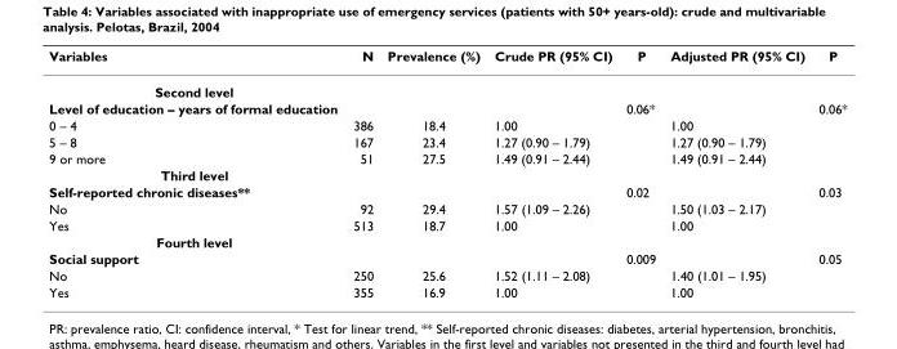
<table><thead><tr><td>Variables</td><td>N</td><td>Prevalence (%)</td><td>Crude PR (95% CI)</td><td>P</td><td>Adjusted PR (95% CI)</td><td>P</td></tr></thead><tbody><tr><td colspan="7">Second level</td></tr><tr><td>Level of education – years of formal education</td><td></td><td></td><td></td><td>0.06*</td><td></td><td>0.06*</td></tr><tr><td>0 – 4</td><td>386</td><td>18.4</td><td>1.00</td><td></td><td>1.00</td><td></td></tr><tr><td>5 – 8</td><td>167</td><td>23.4</td><td>1.27 (0.90 – 1.79)</td><td></td><td>1.27 (0.90 – 1.79)</td><td></td></tr><tr><td>9 or more</td><td>51</td><td>27.5</td><td>1.49 (0.91 – 2.44)</td><td></td><td>1.49 (0.91 – 2.44)</td><td></td></tr><tr><td colspan="7">Third level</td></tr><tr><td>Self-reported chronic diseases**</td><td></td><td></td><td></td><td>0.02</td><td></td><td>0.03</td></tr><tr><td>No</td><td>92</td><td>29.4</td><td>1.57 (1.09 – 2.26)</td><td></td><td>1.50 (1.03 – 2.17)</td><td></td></tr><tr><td>Yes</td><td>513</td><td>18.7</td><td>1.00</td><td></td><td>1.00</td><td></td></tr><tr><td colspan="7">Fourth level</td></tr><tr><td>Social support</td><td></td><td></td><td></td><td>0.009</td><td></td><td>0.05</td></tr><tr><td>No</td><td>250</td><td>25.6</td><td>1.52 (1.11 – 2.08)</td><td></td><td>1.40 (1.01 – 1.95)</td><td></td></tr><tr><td>Yes</td><td>355</td><td>16.9</td><td>1.00</td><td></td><td>1.00</td><td></td></tr></tbody></table>